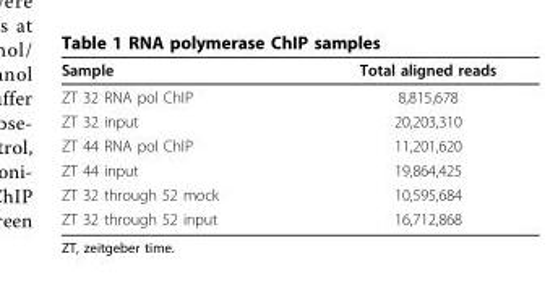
<table><thead><tr><td>Sample</td><td>Total aligned reads</td></tr></thead><tbody><tr><td>ZT 32 RNA pol ChIP</td><td>8,815,678</td></tr><tr><td>ZT 32 input</td><td>20,203,310</td></tr><tr><td>ZT 44 RNA pol ChIP</td><td>11,201,620</td></tr><tr><td>ZT 44 input</td><td>19,864,425</td></tr><tr><td>ZT 32 through 52 mock</td><td>10,595,684</td></tr><tr><td>ZT 32 through 52 input</td><td>16,712,868</td></tr></tbody></table>